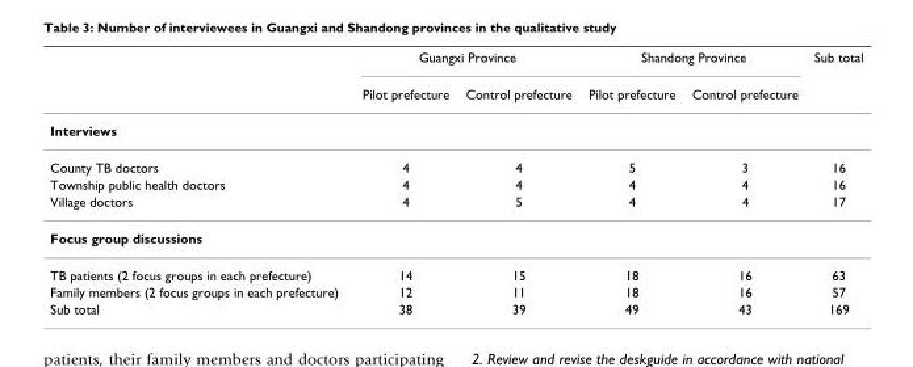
<table><thead><tr><td rowspan="2"></td><td colspan="2">Guangxi Province</td><td colspan="2">Shandong Province</td><td rowspan="2">Sub total</td></tr><tr><td>Pilot prefecture</td><td>Control prefecture</td><td>Pilot prefecture</td><td>Control prefecture</td></tr></thead><tbody><tr><td colspan="6">Interviews</td></tr><tr><td>County TB doctors</td><td>4</td><td>4</td><td>5</td><td>3</td><td>16</td></tr><tr><td>Township public health doctors</td><td>4</td><td>4</td><td>4</td><td>4</td><td>16</td></tr><tr><td>Village doctors</td><td>4</td><td>5</td><td>4</td><td>4</td><td>17</td></tr><tr><td colspan="6">Focus group discussions</td></tr><tr><td>TB patients (2 focus groups in each prefecture)</td><td>14</td><td>15</td><td>18</td><td>16</td><td>63</td></tr><tr><td>Family members (2 focus groups in each prefecture)</td><td>12</td><td>11</td><td>18</td><td>16</td><td>57</td></tr><tr><td>Sub total</td><td>38</td><td>39</td><td>49</td><td>43</td><td>169</td></tr></tbody></table>